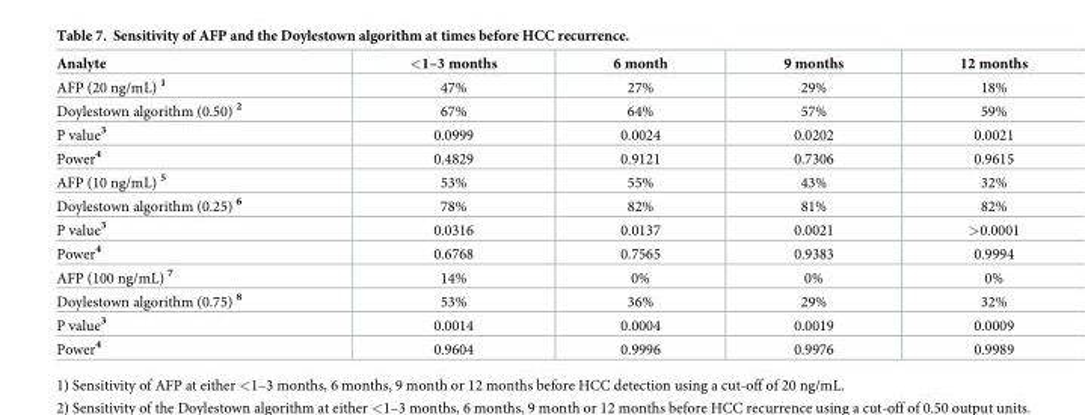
<table><thead><tr><td>Analyte</td><td>&lt;1–3 months</td><td>6 month</td><td>9 months</td><td>12 months</td></tr></thead><tbody><tr><td>AFP (20 ng/mL) <sup>1</sup></td><td>47%</td><td>27%</td><td>29%</td><td>18%</td></tr><tr><td>Doylestown algorithm (0.50) <sup>2</sup></td><td>67%</td><td>64%</td><td>57%</td><td>59%</td></tr><tr><td>P value<sup>3</sup></td><td>0.0999</td><td>0.0024</td><td>0.0202</td><td>0.0021</td></tr><tr><td>Power<sup>4</sup></td><td>0.4829</td><td>0.9121</td><td>0.7306</td><td>0.9615</td></tr><tr><td>AFP (10 ng/mL) <sup>5</sup></td><td>53%</td><td>55%</td><td>43%</td><td>32%</td></tr><tr><td>Doylestown algorithm (0.25) <sup>6</sup></td><td>78%</td><td>82%</td><td>81%</td><td>82%</td></tr><tr><td>P value<sup>3</sup></td><td>0.0316</td><td>0.0137</td><td>0.0021</td><td>&gt;0.0001</td></tr><tr><td>Power<sup>4</sup></td><td>0.6768</td><td>0.7565</td><td>0.9383</td><td>0.9994</td></tr><tr><td>AFP (100 ng/mL) <sup>7</sup></td><td>14%</td><td>0%</td><td>0%</td><td>0%</td></tr><tr><td>Doylestown algorithm (0.75) <sup>8</sup></td><td>53%</td><td>36%</td><td>29%</td><td>32%</td></tr><tr><td>P value<sup>3</sup></td><td>0.0014</td><td>0.0004</td><td>0.0019</td><td>0.0009</td></tr><tr><td>Power<sup>4</sup></td><td>0.9604</td><td>0.9996</td><td>0.9976</td><td>0.9989</td></tr></tbody></table>